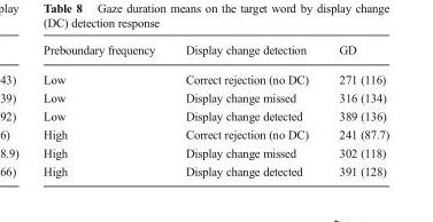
<table><thead><tr><td>Preboundary frequency</td><td>Display change detection</td><td>GD</td></tr></thead><tbody><tr><td>Low</td><td>Correct rejection (no DC)</td><td>271 (116)</td></tr><tr><td>Low</td><td>Display change missed</td><td>316 (134)</td></tr><tr><td>Low</td><td>Display change detected</td><td>389 (136)</td></tr><tr><td>High</td><td>Correct rejection (no DC)</td><td>241 (87.7)</td></tr><tr><td>High</td><td>Display change missed</td><td>302 (118)</td></tr><tr><td>High</td><td>Display change detected</td><td>391 (128)</td></tr></tbody></table>